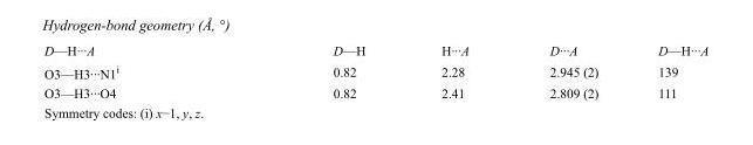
<table><tbody><tr><td>D—H···A</td><td>D—H</td><td>H···A</td><td>D···A</td><td>D—H···A</td></tr><tr><td>O3—H3···N1<sup>i</sup></td><td>0.82</td><td>2.28</td><td>2.945 (2)</td><td>139</td></tr><tr><td>O3—H3···O4</td><td>0.82</td><td>2.41</td><td>2.809 (2)</td><td>111</td></tr></tbody></table>